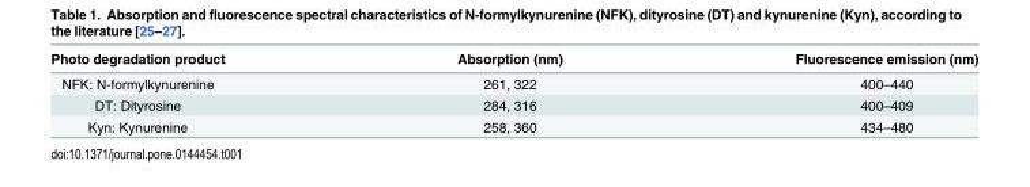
<table><thead><tr><td>Photo degradation product</td><td>Absorption (nm)</td><td>Fluorescence emission (nm)</td></tr></thead><tbody><tr><td>NFK: N-formylkynurenine</td><td>261, 322</td><td>400–440</td></tr><tr><td>DT: Dityrosine</td><td>284, 316</td><td>400–409</td></tr><tr><td>Kyn: Kynurenine</td><td>258, 360</td><td>434–480</td></tr></tbody></table>